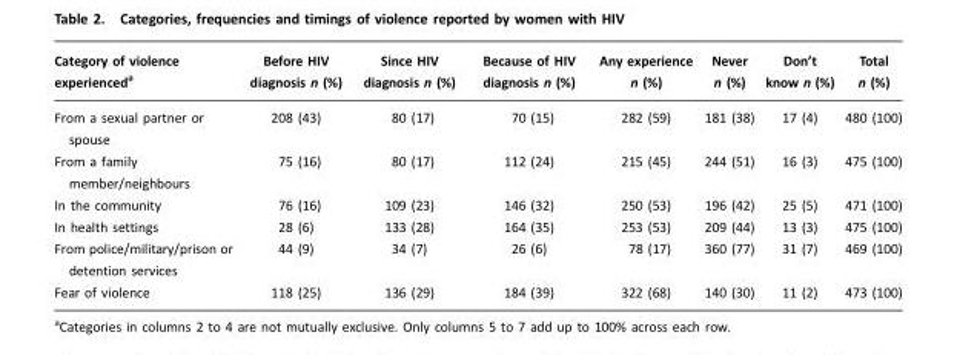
<table><thead><tr><td>Category of violence experienced<sup>a</sup></td><td>Before HIV diagnosis n (%)</td><td>Since HIV diagnosis n (%)</td><td>Because of HIV diagnosis n (%)</td><td>Any experience n (%)</td><td>Never n (%)</td><td>Don’t know n (%)</td><td>Total n (%)</td></tr></thead><tbody><tr><td>From a sexual partner or spouse</td><td>208 (43)</td><td>80 (17)</td><td>70 (15)</td><td>282 (59)</td><td>181 (38)</td><td>17 (4)</td><td>480 (100)</td></tr><tr><td>From a family member/neighbours</td><td>75 (16)</td><td>80 (17)</td><td>112 (24)</td><td>215 (45)</td><td>244 (51)</td><td>16 (3)</td><td>475 (100)</td></tr><tr><td>In the community</td><td>76 (16)</td><td>109 (23)</td><td>146 (32)</td><td>250 (53)</td><td>196 (42)</td><td>25 (5)</td><td>471 (100)</td></tr><tr><td>In health settings</td><td>28 (6)</td><td>133 (28)</td><td>164 (35)</td><td>253 (53)</td><td>209 (44)</td><td>13 (3)</td><td>475 (100)</td></tr><tr><td>From police/military/prison or detention services</td><td>44 (9)</td><td>34 (7)</td><td>26 (6)</td><td>78 (17)</td><td>360 (77)</td><td>31 (7)</td><td>469 (100)</td></tr><tr><td>Fear of violence</td><td>118 (25)</td><td>136 (29)</td><td>184 (39)</td><td>322 (68)</td><td>140 (30)</td><td>11 (2)</td><td>473 (100)</td></tr></tbody></table>